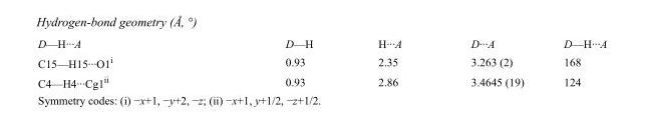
<table><tbody><tr><td>D—H···A</td><td>D—H</td><td>H···A</td><td>D···A</td><td>D—H···A</td></tr><tr><td>C15—H15···O1<sup>i</sup></td><td>0.93</td><td>2.35</td><td>3.263 (2)</td><td>168</td></tr><tr><td>C4—H4···Cg1<sup>ii</sup></td><td>0.93</td><td>2.86</td><td>3.4645 (19)</td><td>124</td></tr></tbody></table>